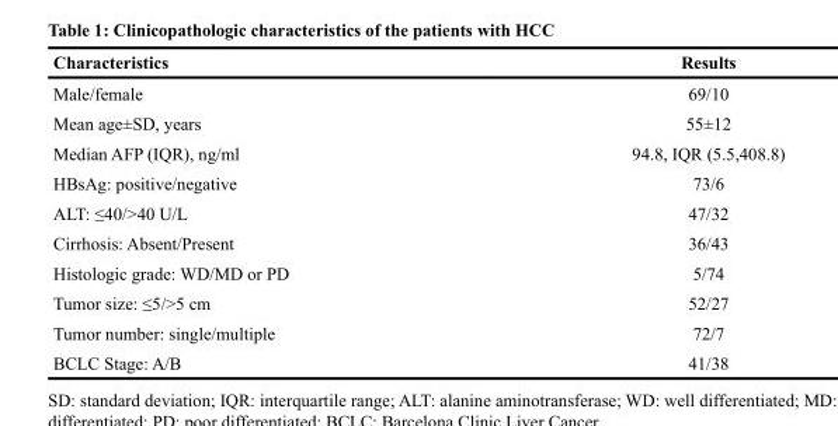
<table><thead><tr><td>Characteristics</td><td>Results</td></tr></thead><tbody><tr><td>Male/female</td><td>69/10</td></tr><tr><td>Mean age±SD, years</td><td>55±12</td></tr><tr><td>Median AFP (IQR), ng/ml</td><td>94.8, IQR (5.5,408.8)</td></tr><tr><td>HBsAg: positive/negative</td><td>73/6</td></tr><tr><td>ALT: ≤40/&gt;40 U/L</td><td>47/32</td></tr><tr><td>Cirrhosis: Absent/Present</td><td>36/43</td></tr><tr><td>Histologic grade: WD/MD or PD</td><td>5/74</td></tr><tr><td>Tumor size: ≤5/&gt;5 cm</td><td>52/27</td></tr><tr><td>Tumor number: single/multiple</td><td>72/7</td></tr><tr><td>BCLC Stage: A/B</td><td>41/38</td></tr></tbody></table>